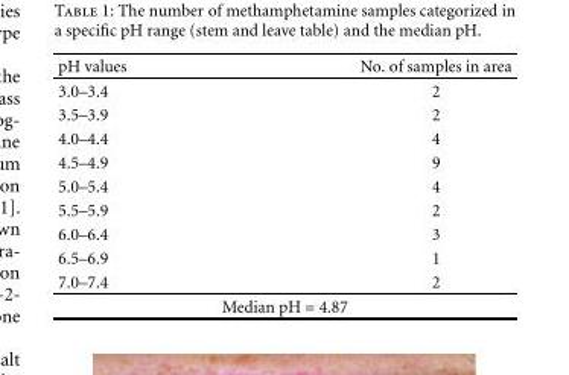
<table><thead><tr><td>pH values</td><td>No. of samples in area</td></tr></thead><tbody><tr><td>3.0–3.4</td><td>2</td></tr><tr><td>3.5–3.9</td><td>2</td></tr><tr><td>4.0–4.4</td><td>4</td></tr><tr><td>4.5–4.9</td><td>9</td></tr><tr><td>5.0–5.4</td><td>4</td></tr><tr><td>5.5–5.9</td><td>2</td></tr><tr><td>6.0–6.4</td><td>3</td></tr><tr><td>6.5–6.9</td><td>1</td></tr><tr><td>7.0–7.4</td><td>2</td></tr><tr><td colspan="2">Median pH = 4.87</td></tr></tbody></table>